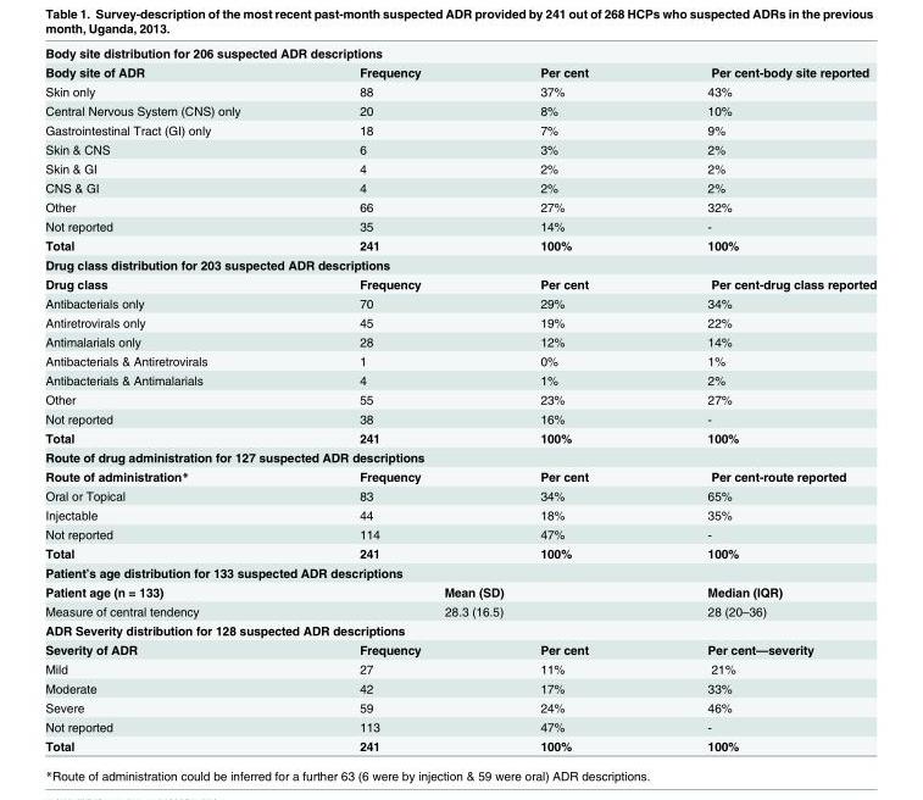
<table><tbody><tr><td colspan="4">Body site distribution for 206 suspected ADR descriptions</td></tr><tr><td>Body site of ADR</td><td>Frequency</td><td>Per cent</td><td>Per cent-body site reported</td></tr><tr><td>Skin only</td><td>88</td><td>37%</td><td>43%</td></tr><tr><td>Central Nervous System (CNS) only</td><td>20</td><td>8%</td><td>10%</td></tr><tr><td>Gastrointestinal Tract (GI) only</td><td>18</td><td>7%</td><td>9%</td></tr><tr><td>Skin &amp; CNS</td><td>6</td><td>3%</td><td>2%</td></tr><tr><td>Skin &amp; GI</td><td>4</td><td>2%</td><td>2%</td></tr><tr><td>CNS &amp; GI</td><td>4</td><td>2%</td><td>2%</td></tr><tr><td>Other</td><td>66</td><td>27%</td><td>32%</td></tr><tr><td>Not reported</td><td>35</td><td>14%</td><td>-</td></tr><tr><td>Total</td><td>241</td><td>100%</td><td>100%</td></tr><tr><td colspan="4">Drug class distribution for 203 suspected ADR descriptions</td></tr><tr><td>Drug class</td><td>Frequency</td><td>Per cent</td><td>Per cent-drug class reported</td></tr><tr><td>Antibacterials only</td><td>70</td><td>29%</td><td>34%</td></tr><tr><td>Antiretrovirals only</td><td>45</td><td>19%</td><td>22%</td></tr><tr><td>Antimalarials only</td><td>28</td><td>12%</td><td>14%</td></tr><tr><td>Antibacterials &amp; Antiretrovirals</td><td>1</td><td>0%</td><td>1%</td></tr><tr><td>Antibacterials &amp; Antimalarials</td><td>4</td><td>1%</td><td>2%</td></tr><tr><td>Other</td><td>55</td><td>23%</td><td>27%</td></tr><tr><td>Not reported</td><td>38</td><td>16%</td><td>-</td></tr><tr><td>Total</td><td>241</td><td>100%</td><td>100%</td></tr><tr><td colspan="4">Route of drug administration for 127 suspected ADR descriptions</td></tr><tr><td>Route of administration*</td><td>Frequency</td><td>Per cent</td><td>Per cent-route reported</td></tr><tr><td>Oral or Topical</td><td>83</td><td>34%</td><td>65%</td></tr><tr><td>Injectable</td><td>44</td><td>18%</td><td>35%</td></tr><tr><td>Not reported</td><td>114</td><td>47%</td><td>-</td></tr><tr><td>Total</td><td>241</td><td>100%</td><td>100%</td></tr><tr><td colspan="4">Patient’s age distribution for 133 suspected ADR descriptions</td></tr><tr><td>Patient age (n = 133)</td><td colspan="2">Mean (SD)</td><td>Median (IQR)</td></tr><tr><td>Measure of central tendency</td><td colspan="2">28.3 (16.5)</td><td>28 (20–36)</td></tr><tr><td colspan="4">ADR Severity distribution for 128 suspected ADR descriptions</td></tr><tr><td>Severity of ADR</td><td>Frequency</td><td>Per cent</td><td>Per cent—severity</td></tr><tr><td>Mild</td><td>27</td><td>11%</td><td>21%</td></tr><tr><td>Moderate</td><td>42</td><td>17%</td><td>33%</td></tr><tr><td>Severe</td><td>59</td><td>24%</td><td>46%</td></tr><tr><td>Not reported</td><td>113</td><td>47%</td><td>-</td></tr><tr><td>Total</td><td>241</td><td>100%</td><td>100%</td></tr></tbody></table>